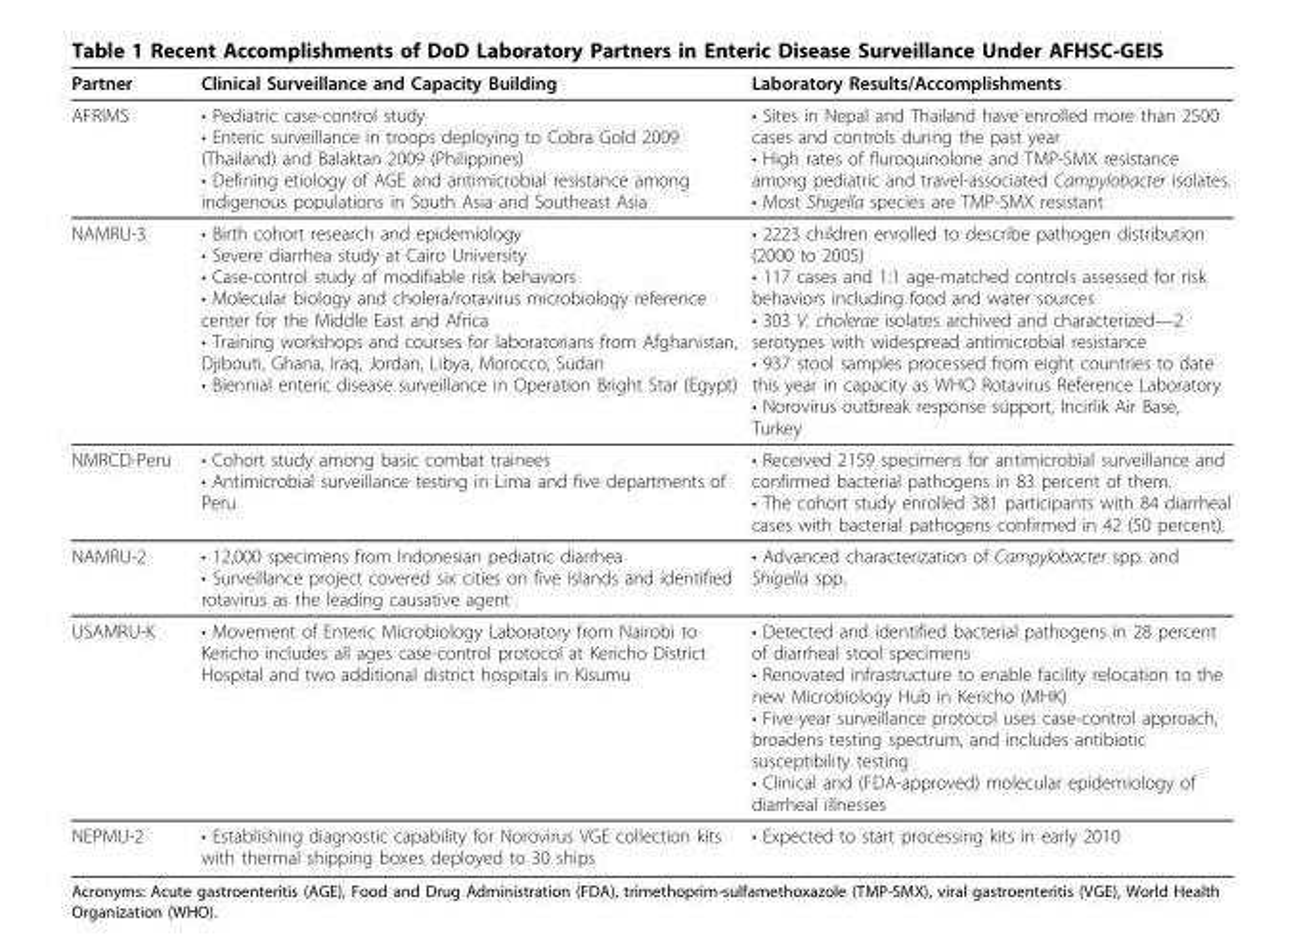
<table><thead><tr><td>Partner</td><td>Clinical Surveillance and Capacity Building</td><td>Laboratory Results/Accomplishments</td></tr></thead><tbody><tr><td>AFRIMS</td><td>• Pediatric case-control study • Enteric surveillance in troops deploying to Cobra Gold 2009 (Thailand) and Balaktan 2009 (Philippines) • Defining etiology of AGE and antimicrobial resistance among indigenous populations in South Asia and Southeast Asia</td><td>• Sites in Nepal and Thailand have enrolled more than 2500 cases and controls during the past year • High rates of fluroquinolone and TMP-SMX resistance among pediatric and travel-associated Campylobacter isolates. • Most Shigella species are TMP-SMX resistant</td></tr><tr><td>NAMRU-3</td><td>• Birth cohort research and epidemiology • Severe diarrhea study at Cairo University • Case-control study of modifiable risk behaviors • Molecular biology and cholera/rotavirus microbiology reference center for the Middle East and Africa • Training workshops and courses for laboratorians from Afghanistan, Djibouti, Ghana, Iraq, Jordan, Libya, Morocco, Sudan • Biennial enteric disease surveillance in Operation Bright Star (Egypt)</td><td>• 2223 children enrolled to describe pathogen distribution (2000 to 2005) • 117 cases and 1:1 age-matched controls assessed for risk behaviors including food and water sources • 303 V. cholerae isolates archived and characterized—2 serotypes with widespread antimicrobial resistance • 937 stool samples processed from eight countries to date this year in capacity as WHO Rotavirus Reference Laboratory • Norovirus outbreak response support, Incirlik Air Base, Turkey</td></tr><tr><td>NMRCD-Peru</td><td>• Cohort study among basic combat trainees • Antimicrobial surveillance testing in Lima and five departments of Peru</td><td>• Received 2159 specimens for antimicrobial surveillance and confirmed bacterial pathogens in 83 percent of them. • The cohort study enrolled 381 participants with 84 diarrheal cases with bacterial pathogens confirmed in 42 (50 percent).</td></tr><tr><td>NAMRU-2</td><td>• 12,000 specimens from Indonesian pediatric diarrhea • Surveillance project covered six cities on five islands and identified rotavirus as the leading causative agent</td><td>• Advanced characterization of Campylobacter spp. and Shigella spp.</td></tr><tr><td>USAMRU-K</td><td>• Movement of Enteric Microbiology Laboratory from Nairobi to Kericho includes all ages case-control protocol at Kericho District Hospital and two additional district hospitals in Kisumu</td><td>• Detected and identified bacterial pathogens in 28 percent of diarrheal stool specimens • Renovated infrastructure to enable facility relocation to the new Microbiology Hub in Kericho (MHK) • Five-year surveillance protocol uses case-control approach, broadens testing spectrum, and includes antibiotic susceptibility testing • Clinical and (FDA-approved) molecular epidemiology of diarrheal illnesses</td></tr><tr><td>NEPMU-2</td><td>• Establishing diagnostic capability for Norovirus VGE collection kits with thermal shipping boxes deployed to 30 ships</td><td>• Expected to start processing kits in early 2010</td></tr></tbody></table>